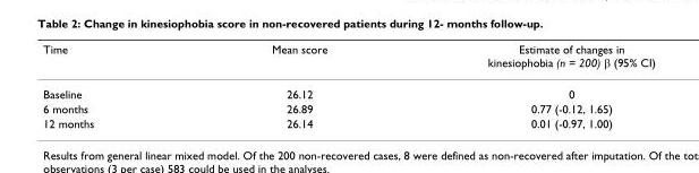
<table><thead><tr><td>Time</td><td>Mean score</td><td>Estimate of changes in kinesiophobia (n = 200) β (95% CI)</td></tr></thead><tbody><tr><td>Baseline</td><td>26.12</td><td>0</td></tr><tr><td>6 months</td><td>26.89</td><td>0.77 (-0.12, 1.65)</td></tr><tr><td>12 months</td><td>26.14</td><td>0.01 (-0.97, 1.00)</td></tr></tbody></table>